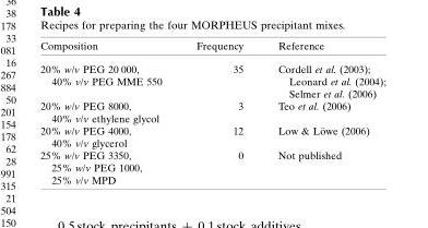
<table><thead><tr><td>Composition</td><td>Frequency</td><td>Reference</td></tr></thead><tbody><tr><td>20% w/v PEG 20 000, 40% v/v PEG MME 550</td><td>35</td><td>Cordell et al. (2003); Leonard et al. (2004); Selmer et al. (2006)</td></tr><tr><td>20% w/v PEG 8000, 40% v/v ethylene glycol</td><td>3</td><td>Teo et al. (2006)</td></tr><tr><td>20% w/v PEG 4000, 40% v/v glycerol</td><td>12</td><td>Low &amp; Lo¨we (2006)</td></tr><tr><td>25% w/v PEG 3350, 25% w/v PEG 1000, 25% v/v MPD</td><td>0</td><td>Not published</td></tr></tbody></table>